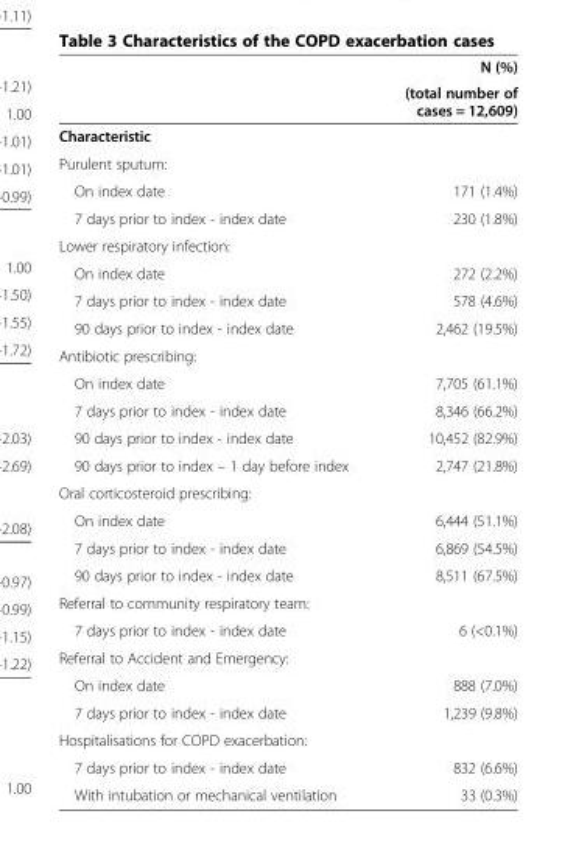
<table><thead><tr><td rowspan="2"></td><td rowspan="2">N (%) (total number of cases = 12,609)</td></tr><tr></tr></thead><tbody><tr><td colspan="2">Characteristic</td></tr><tr><td colspan="2">Purulent sputum:</td></tr><tr><td>On index date</td><td>171 (1.4%)</td></tr><tr><td>7 days prior to index - index date</td><td>230 (1.8%)</td></tr><tr><td colspan="2">Lower respiratory infection:</td></tr><tr><td>On index date</td><td>272 (2.2%)</td></tr><tr><td>7 days prior to index - index date</td><td>578 (4.6%)</td></tr><tr><td>90 days prior to index - index date</td><td>2,462 (19.5%)</td></tr><tr><td colspan="2">Antibiotic prescribing:</td></tr><tr><td>On index date</td><td>7,705 (61.1%)</td></tr><tr><td>7 days prior to index - index date</td><td>8,346 (66.2%)</td></tr><tr><td>90 days prior to index - index date</td><td>10,452 (82.9%)</td></tr><tr><td>90 days prior to index – 1 day before index</td><td>2,747 (21.8%)</td></tr><tr><td colspan="2">Oral corticosteroid prescribing:</td></tr><tr><td>On index date</td><td>6,444 (51.1%)</td></tr><tr><td>7 days prior to index - index date</td><td>6,869 (54.5%)</td></tr><tr><td>90 days prior to index - index date</td><td>8,511 (67.5%)</td></tr><tr><td colspan="2">Referral to community respiratory team:</td></tr><tr><td>7 days prior to index - index date</td><td>6 (&lt;0.1%)</td></tr><tr><td colspan="2">Referral to Accident and Emergency:</td></tr><tr><td>On index date</td><td>888 (7.0%)</td></tr><tr><td>7 days prior to index - index date</td><td>1,239 (9.8%)</td></tr><tr><td colspan="2">Hospitalisations for COPD exacerbation:</td></tr><tr><td>7 days prior to index - index date</td><td>832 (6.6%)</td></tr><tr><td>With intubation or mechanical ventilation</td><td>33 (0.3%)</td></tr></tbody></table>